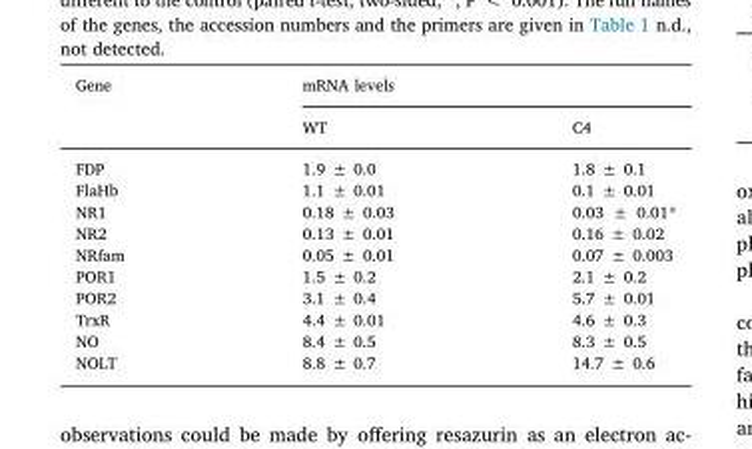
<table><thead><tr><td rowspan="2">Gene</td><td colspan="2">mRNA levels</td></tr><tr><td>WT</td><td>C4</td></tr></thead><tbody><tr><td>FDP</td><td>1.9 ± 0.0</td><td>1.8 ± 0.1</td></tr><tr><td>FlaHb</td><td>1.1 ± 0.01</td><td>0.1 ± 0.01</td></tr><tr><td>NR1</td><td>0.18 ± 0.03</td><td>0.03 ± 0.01*</td></tr><tr><td>NR2</td><td>0.13 ± 0.01</td><td>0.16 ± 0.02</td></tr><tr><td>NRfam</td><td>0.05 ± 0.01</td><td>0.07 ± 0.003</td></tr><tr><td>POR1</td><td>1.5 ± 0.2</td><td>2.1 ± 0.2</td></tr><tr><td>POR2</td><td>3.1 ± 0.4</td><td>5.7 ± 0.01</td></tr><tr><td>TrxR</td><td>4.4 ± 0.01</td><td>4.6 ± 0.3</td></tr><tr><td>NO</td><td>8.4 ± 0.5</td><td>8.3 ± 0.5</td></tr><tr><td>NOLT</td><td>8.8 ± 0.7</td><td>14.7 ± 0.6</td></tr></tbody></table>